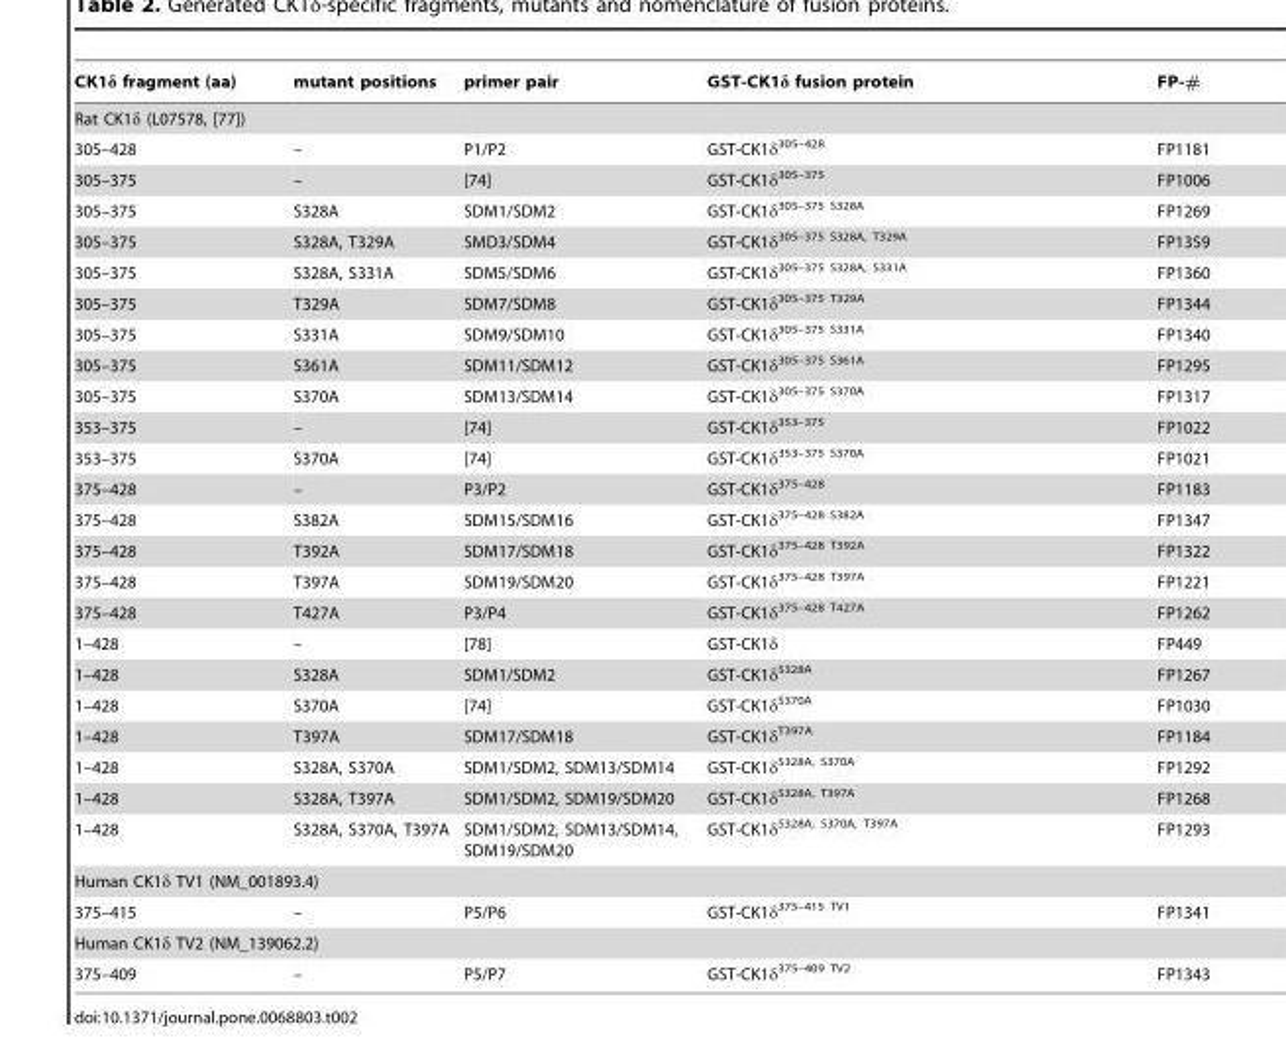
<table><thead><tr><td>CK1δ fragment (aa)</td><td>mutant positions</td><td>primer pair</td><td>GST-CK1δ fusion protein</td><td>FP-#</td></tr></thead><tbody><tr><td colspan="5">Rat CK1δ (L07578, [77])</td></tr><tr><td>305–428</td><td>–</td><td>P1/P2</td><td>GST-CK1δ<sup>305–428</sup></td><td>FP1181</td></tr><tr><td>305–375</td><td>–</td><td>[74]</td><td>GST-CK1δ<sup>305–375</sup></td><td>FP1006</td></tr><tr><td>305–375</td><td>S328A</td><td>SDM1/SDM2</td><td>GST-CK1δ<sup>305–375 S328A</sup></td><td>FP1269</td></tr><tr><td>305–375</td><td>S328A, T329A</td><td>SMD3/SDM4</td><td>GST-CK1δ<sup>305–375 S328A, T329A</sup></td><td>FP1359</td></tr><tr><td>305–375</td><td>S328A, S331A</td><td>SDM5/SDM6</td><td>GST-CK1δ<sup>305–375 S328A, S331A</sup></td><td>FP1360</td></tr><tr><td>305–375</td><td>T329A</td><td>SDM7/SDM8</td><td>GST-CK1δ<sup>305–375 T329A</sup></td><td>FP1344</td></tr><tr><td>305–375</td><td>S331A</td><td>SDM9/SDM10</td><td>GST-CK1δ<sup>305–375 S331A</sup></td><td>FP1340</td></tr><tr><td>305–375</td><td>S361A</td><td>SDM11/SDM12</td><td>GST-CK1δ<sup>305–375 S361A</sup></td><td>FP1295</td></tr><tr><td>305–375</td><td>S370A</td><td>SDM13/SDM14</td><td>GST-CK1δ<sup>305–375 S370A</sup></td><td>FP1317</td></tr><tr><td>353–375</td><td>–</td><td>[74]</td><td>GST-CK1δ<sup>353–375</sup></td><td>FP1022</td></tr><tr><td>353–375</td><td>S370A</td><td>[74]</td><td>GST-CK1δ<sup>353–375 S370A</sup></td><td>FP1021</td></tr><tr><td>375–428</td><td>–</td><td>P3/P2</td><td>GST-CK1δ<sup>375–428</sup></td><td>FP1183</td></tr><tr><td>375–428</td><td>S382A</td><td>SDM15/SDM16</td><td>GST-CK1δ<sup>375–428 S382A</sup></td><td>FP1347</td></tr><tr><td>375–428</td><td>T392A</td><td>SDM17/SDM18</td><td>GST-CK1δ<sup>375–428 T392A</sup></td><td>FP1322</td></tr><tr><td>375–428</td><td>T397A</td><td>SDM19/SDM20</td><td>GST-CK1δ<sup>375–428 T397A</sup></td><td>FP1221</td></tr><tr><td>375–428</td><td>T427A</td><td>P3/P4</td><td>GST-CK1δ<sup>375–428 T427A</sup></td><td>FP1262</td></tr><tr><td>1–428</td><td>–</td><td>[78]</td><td>GST-CK1δ</td><td>FP449</td></tr><tr><td>1–428</td><td>S328A</td><td>SDM1/SDM2</td><td>GST-CK1δ<sup>S328A</sup></td><td>FP1267</td></tr><tr><td>1–428</td><td>S370A</td><td>[74]</td><td>GST-CK1δ<sup>S370A</sup></td><td>FP1030</td></tr><tr><td>1–428</td><td>T397A</td><td>SDM17/SDM18</td><td>GST-CK1δ<sup>T397A</sup></td><td>FP1184</td></tr><tr><td>1–428</td><td>S328A, S370A</td><td>SDM1/SDM2, SDM13/SDM14</td><td>GST-CK1δ<sup>S328A, S370A</sup></td><td>FP1292</td></tr><tr><td>1–428</td><td>S328A, T397A</td><td>SDM1/SDM2, SDM19/SDM20</td><td>GST-CK1δ<sup>S328A, T397A</sup></td><td>FP1268</td></tr><tr><td>1–428</td><td>S328A, S370A, T397A</td><td>SDM1/SDM2, SDM13/SDM14, SDM19/SDM20</td><td>GST-CK1δ<sup>S328A, S370A, T397A</sup></td><td>FP1293</td></tr><tr><td colspan="5">Human CK1δ TV1 (NM_001893.4)</td></tr><tr><td>375–415</td><td>–</td><td>P5/P6</td><td>GST-CK1δ<sup>375–415 TV1</sup></td><td>FP1341</td></tr><tr><td colspan="5">Human CK1δ TV2 (NM_139062.2)</td></tr><tr><td>375–409</td><td>–</td><td>P5/P7</td><td>GST-CK1δ<sup>375–409 TV2</sup></td><td>FP1343</td></tr></tbody></table>